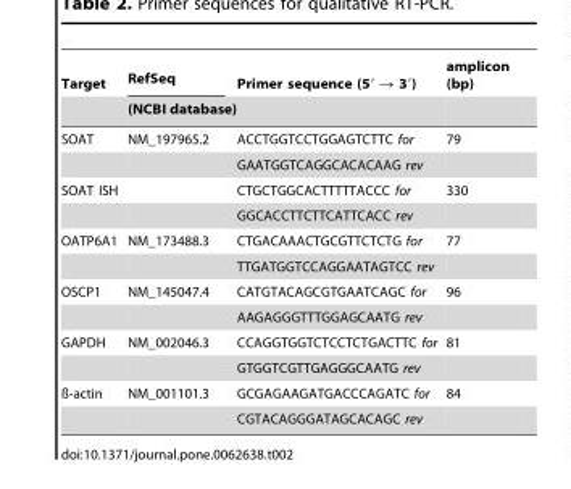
<table><thead><tr><td rowspan="2">Target</td><td rowspan="2">RefSeq (NCBI database)</td><td rowspan="2">Primer sequence (5′ → 3′)</td><td rowspan="2">amplicon (bp)</td></tr><tr></tr></thead><tbody><tr><td rowspan="2">SOAT</td><td>NM_197965.2</td><td>ACCTGGTCCTGGAGTCTTC for</td><td>79</td></tr><tr><td></td><td>GAATGGTCAGGCACACAAG rev</td><td></td></tr><tr><td rowspan="2">SOAT ISH</td><td></td><td>CTGCTGGCACTTTTTACCC for</td><td>330</td></tr><tr><td></td><td>GGCACCTTCTTCATTCACC rev</td><td></td></tr><tr><td rowspan="2">OATP6A1</td><td>NM_173488.3</td><td>CTGACAAACTGCGTTCTCTG for</td><td>77</td></tr><tr><td></td><td>TTGATGGTCCAGGAATAGTCC rev</td><td></td></tr><tr><td rowspan="2">OSCP1</td><td>NM_145047.4</td><td>CATGTACAGCGTGAATCAGC for</td><td>96</td></tr><tr><td></td><td>AAGAGGGTTTGGAGCAATG rev</td><td></td></tr><tr><td rowspan="2">GAPDH</td><td>NM_002046.3</td><td>CCAGGTGGTCTCCTCTGACTTC for</td><td>81</td></tr><tr><td></td><td>GTGGTCGTTGAGGGCAATG rev</td><td></td></tr><tr><td rowspan="2">ß-actin</td><td>NM_001101.3</td><td>GCGAGAAGATGACCCAGATC for</td><td>84</td></tr><tr><td></td><td>CGTACAGGGATAGCACAGC rev</td><td></td></tr></tbody></table>